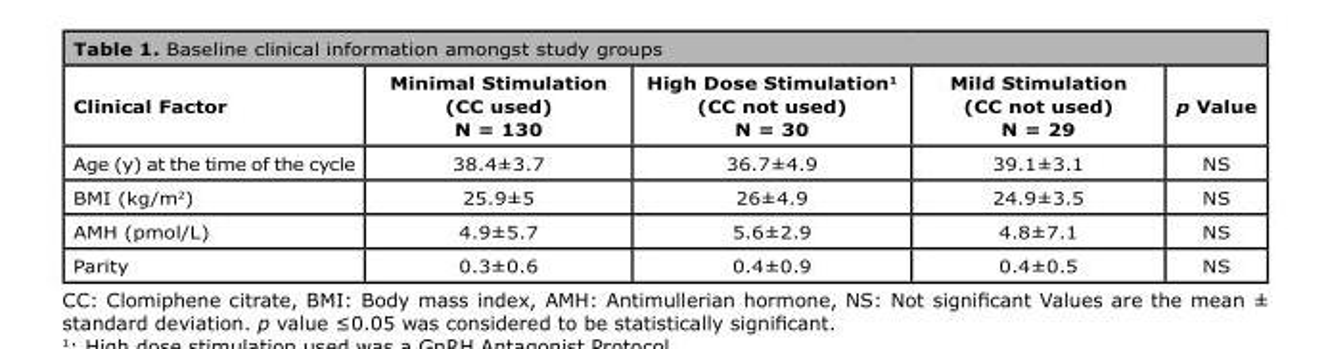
<table><thead><tr><td>Clinical Factor</td><td>Minimal Stimulation (CC used) N = 130</td><td>High Dose Stimulation<sup>1</sup> (CC not used) N = 30</td><td>Mild Stimulation (CC not used) N = 29</td><td>p Value</td></tr></thead><tbody><tr><td>Age (y) at the time of the cycle</td><td>38.4±3.7</td><td>36.7±4.9</td><td>39.1±3.1</td><td>NS</td></tr><tr><td>BMI (kg/m<sup>2</sup>)</td><td>25.9±5</td><td>26±4.9</td><td>24.9±3.5</td><td>NS</td></tr><tr><td>AMH (pmol/L)</td><td>4.9±5.7</td><td>5.6±2.9</td><td>4.8±7.1</td><td>NS</td></tr><tr><td>Parity</td><td>0.3±0.6</td><td>0.4±0.9</td><td>0.4±0.5</td><td>NS</td></tr></tbody></table>